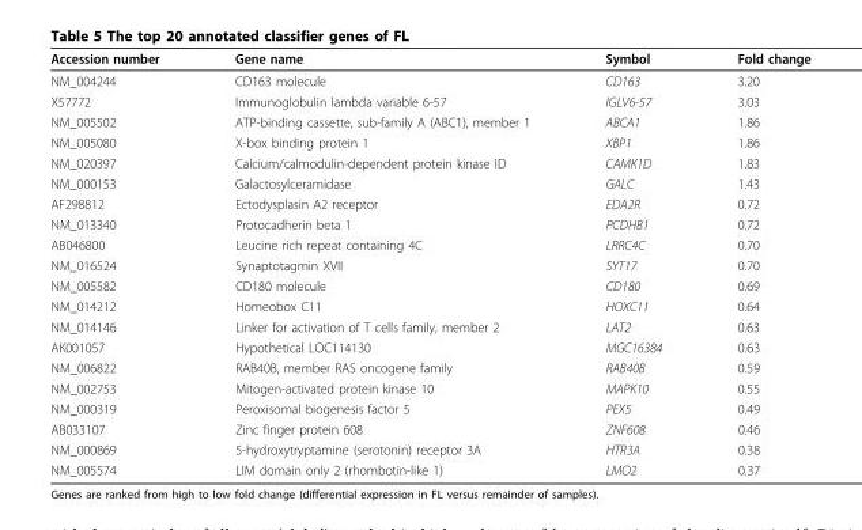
<table><thead><tr><td>Accession number</td><td>Gene name</td><td>Symbol</td><td>Fold change</td></tr></thead><tbody><tr><td>NM_004244</td><td>CD163 molecule</td><td>CD163</td><td>3.20</td></tr><tr><td>X57772</td><td>Immunoglobulin lambda variable 6-57</td><td>IGLV6-57</td><td>3.03</td></tr><tr><td>NM_005502</td><td>ATP-binding cassette, sub-family A (ABC1), member 1</td><td>ABCA1</td><td>1.86</td></tr><tr><td>NM_005080</td><td>X-box binding protein 1</td><td>XBP1</td><td>1.86</td></tr><tr><td>NM_020397</td><td>Calcium/calmodulin-dependent protein kinase ID</td><td>CAMK1D</td><td>1.83</td></tr><tr><td>NM_000153</td><td>Galactosylceramidase</td><td>GALC</td><td>1.43</td></tr><tr><td>AF298812</td><td>Ectodysplasin A2 receptor</td><td>EDA2R</td><td>0.72</td></tr><tr><td>NM_013340</td><td>Protocadherin beta 1</td><td>PCDHB1</td><td>0.72</td></tr><tr><td>AB046800</td><td>Leucine rich repeat containing 4C</td><td>LRRC4C</td><td>0.70</td></tr><tr><td>NM_016524</td><td>Synaptotagmin XVII</td><td>SYT17</td><td>0.70</td></tr><tr><td>NM_005582</td><td>CD180 molecule</td><td>CD180</td><td>0.69</td></tr><tr><td>NM_014212</td><td>Homeobox C11</td><td>HOXC11</td><td>0.64</td></tr><tr><td>NM_014146</td><td>Linker for activation of T cells family, member 2</td><td>LAT2</td><td>0.63</td></tr><tr><td>AK001057</td><td>Hypothetical LOC114130</td><td>MGC16384</td><td>0.63</td></tr><tr><td>NM_006822</td><td>RAB40B, member RAS oncogene family</td><td>RAB40B</td><td>0.59</td></tr><tr><td>NM_002753</td><td>Mitogen-activated protein kinase 10</td><td>MAPK10</td><td>0.55</td></tr><tr><td>NM_000319</td><td>Peroxisomal biogenesis factor 5</td><td>PEX5</td><td>0.49</td></tr><tr><td>AB033107</td><td>Zinc finger protein 608</td><td>ZNF608</td><td>0.46</td></tr><tr><td>NM_000869</td><td>5-hydroxytryptamine (serotonin) receptor 3A</td><td>HTR3A</td><td>0.38</td></tr><tr><td>NM_005574</td><td>LIM domain only 2 (rhombotin-like 1)</td><td>LMO2</td><td>0.37</td></tr></tbody></table>